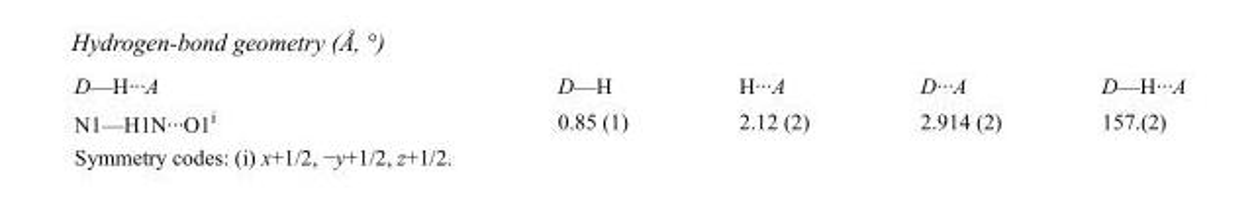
<table><tbody><tr><td>D—H···A</td><td>D—H</td><td>H···A</td><td>D···A</td><td>D—H···A</td></tr><tr><td>N1—H1N···O1<sup>i</sup></td><td>0.85 (1)</td><td>2.12 (2)</td><td>2.914 (2)</td><td>157.(2)</td></tr></tbody></table>